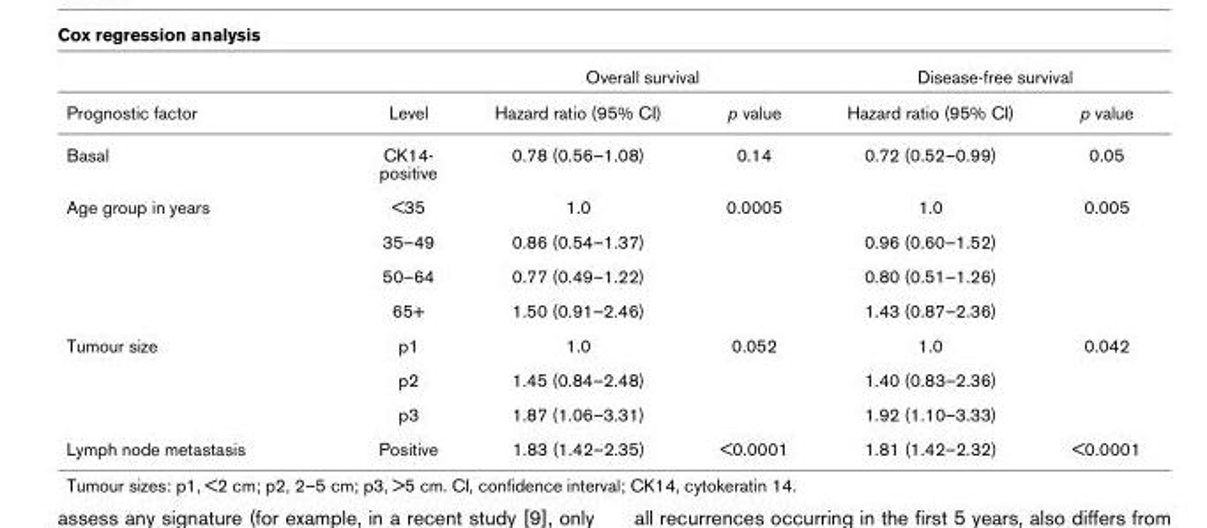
<table><thead><tr><td rowspan="2">Prognostic factor</td><td rowspan="2">Level</td><td colspan="2">Overall survival</td><td colspan="2">Disease-free survival</td></tr><tr><td>Hazard ratio (95% CI)</td><td>p value</td><td>Hazard ratio (95% CI)</td><td>p value</td></tr></thead><tbody><tr><td>Basal</td><td>CK14- positive</td><td>0.78 (0.56–1.08)</td><td>0.14</td><td>0.72 (0.52–0.99)</td><td>0.05</td></tr><tr><td rowspan="4">Age group in years</td><td>&lt;35</td><td>1.0</td><td>0.0005</td><td>1.0</td><td>0.005</td></tr><tr><td>35–49</td><td>0.86 (0.54–1.37)</td><td></td><td>0.96 (0.60–1.52)</td><td></td></tr><tr><td>50–64</td><td>0.77 (0.49–1.22)</td><td></td><td>0.80 (0.51–1.26)</td><td></td></tr><tr><td>65+</td><td>1.50 (0.91–2.46)</td><td></td><td>1.43 (0.87–2.36)</td><td></td></tr><tr><td rowspan="3">Tumour size</td><td>p1</td><td>1.0</td><td>0.052</td><td>1.0</td><td>0.042</td></tr><tr><td>p2</td><td>1.45 (0.84–2.48)</td><td></td><td>1.40 (0.83–2.36)</td><td></td></tr><tr><td>p3</td><td>1.87 (1.06–3.31)</td><td></td><td>1.92 (1.10–3.33)</td><td></td></tr><tr><td>Lymph node metastasis</td><td>Positive</td><td>1.83 (1.42–2.35)</td><td>&lt;0.0001</td><td>1.81 (1.42–2.32)</td><td>&lt;0.0001</td></tr></tbody></table>